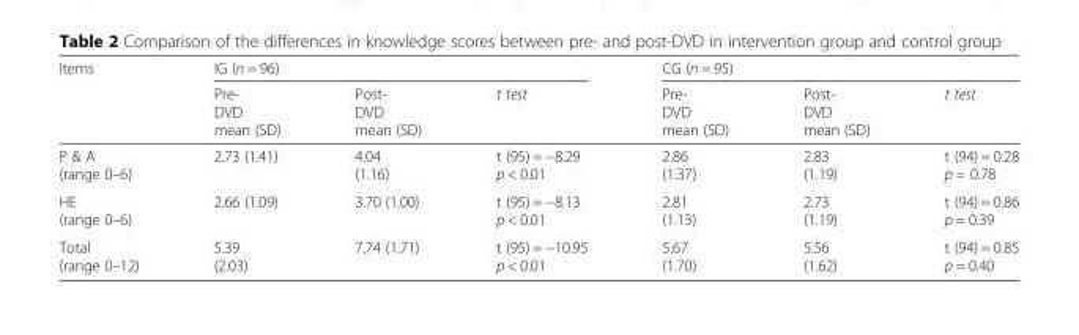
<table><thead><tr><td rowspan="2">Items</td><td colspan="3">IG (n = 96)</td><td colspan="3">CG (n = 95)</td></tr><tr><td>Pre- DVD mean (SD)</td><td>Post- DVD mean (SD)</td><td>t test</td><td>Pre- DVD mean (SD)</td><td>Post- DVD mean (SD)</td><td>t test</td></tr></thead><tbody><tr><td>P &amp; A (range 0–6)</td><td>2.73 (1.41)</td><td>4.04 (1.16)</td><td>t (95) = −8.29 p &lt; 0.01</td><td>2.86 (1.37)</td><td>2.83 (1.19)</td><td>t (94) = 0.28 p = 0.78</td></tr><tr><td>HE (range 0–6)</td><td>2.66 (1.09)</td><td>3.70 (1.00)</td><td>t (95) = −8.13 p &lt; 0.01</td><td>2.81 (1.13)</td><td>2.73 (1.19)</td><td>t (94) = 0.86 p = 0.39</td></tr><tr><td>Total (range 0–12)</td><td>5.39 (2.03)</td><td>7.74 (1.71)</td><td>t (95) = −10.95 p &lt; 0.01</td><td>5.67 (1.70)</td><td>5.56 (1.62)</td><td>t (94) = 0.85 p = 0.40</td></tr></tbody></table>